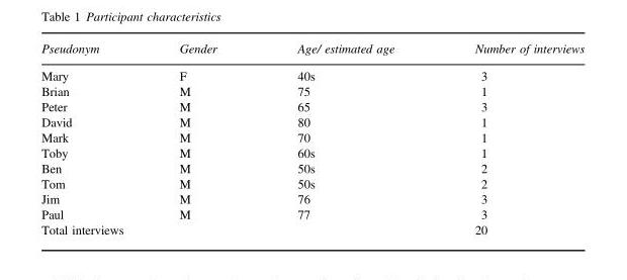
<table><thead><tr><td>Pseudonym</td><td>Gender</td><td>Age/ estimated age</td><td>Number of interviews</td></tr></thead><tbody><tr><td>Mary</td><td>F</td><td>40s</td><td>3</td></tr><tr><td>Brian</td><td>M</td><td>75</td><td>1</td></tr><tr><td>Peter</td><td>M</td><td>65</td><td>3</td></tr><tr><td>David</td><td>M</td><td>80</td><td>1</td></tr><tr><td>Mark</td><td>M</td><td>70</td><td>1</td></tr><tr><td>Toby</td><td>M</td><td>60s</td><td>1</td></tr><tr><td>Ben</td><td>M</td><td>50s</td><td>2</td></tr><tr><td>Tom</td><td>M</td><td>50s</td><td>2</td></tr><tr><td>Jim</td><td>M</td><td>76</td><td>3</td></tr><tr><td>Paul</td><td>M</td><td>77</td><td>3</td></tr><tr><td colspan="3">Total interviews</td><td>20</td></tr></tbody></table>